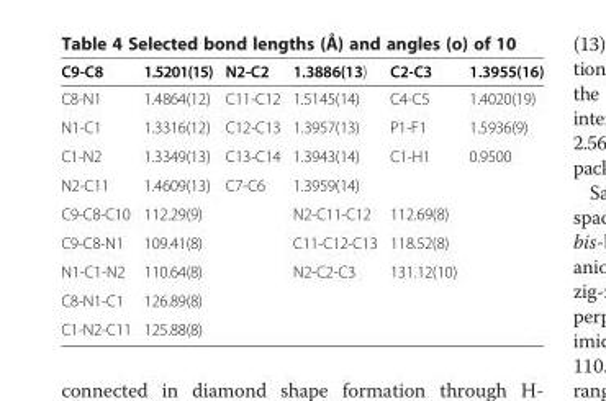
<table><thead><tr><td>C9-C8</td><td>1.5201(15)</td><td>N2-C2</td><td>1.3886(13)</td><td>C2-C3</td><td>1.3955(16)</td></tr></thead><tbody><tr><td>C8-N1</td><td>1.4864(12)</td><td>C11-C12</td><td>1.5145(14)</td><td>C4-C5</td><td>1.4020(19)</td></tr><tr><td>N1-C1</td><td>1.3316(12)</td><td>C12-C13</td><td>1.3957(13)</td><td>P1-F1</td><td>1.5936(9)</td></tr><tr><td>C1-N2</td><td>1.3349(13)</td><td>C13-C14</td><td>1.3943(14)</td><td>C1-H1</td><td>0.9500</td></tr><tr><td>N2-C11</td><td>1.4609(13)</td><td>C7-C6</td><td>1.3959(14)</td><td></td><td></td></tr><tr><td>C9-C8-C10</td><td>112.29(9)</td><td></td><td>N2-C11-C12</td><td>112.69(8)</td><td></td></tr><tr><td>C9-C8-N1</td><td>109.41(8)</td><td></td><td>C11-C12-C13</td><td>118.52(8)</td><td></td></tr><tr><td>N1-C1-N2</td><td>110.64(8)</td><td></td><td>N2-C2-C3</td><td>131.12(10)</td><td></td></tr><tr><td>C8-N1-C1</td><td>126.89(8)</td><td></td><td></td><td></td><td></td></tr><tr><td>C1-N2-C11</td><td>125.88(8)</td><td></td><td></td><td></td><td></td></tr></tbody></table>